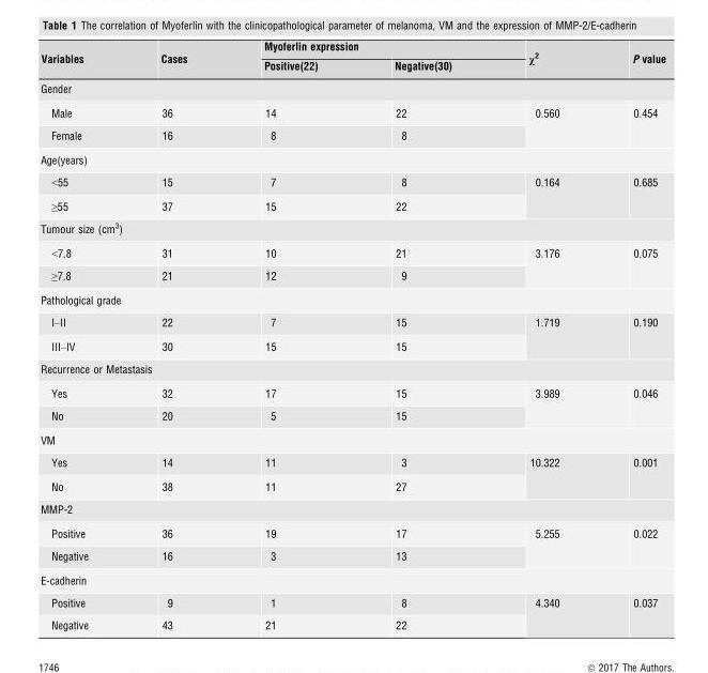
<table><thead><tr><td rowspan="2">Variables</td><td rowspan="2">Cases</td><td colspan="2">Myoferlin expression</td><td rowspan="2">χ<sup>2</sup></td><td rowspan="2">P value</td></tr><tr><td>Positive(22)</td><td>Negative(30)</td></tr></thead><tbody><tr><td colspan="6">Gender</td></tr><tr><td>Male</td><td>36</td><td>14</td><td>22</td><td rowspan="2">0.560</td><td rowspan="2">0.454</td></tr><tr><td>Female</td><td>16</td><td>8</td><td>8</td></tr><tr><td colspan="6">Age(years)</td></tr><tr><td>&lt;55</td><td>15</td><td>7</td><td>8</td><td rowspan="2">0.164</td><td rowspan="2">0.685</td></tr><tr><td>≥55</td><td>37</td><td>15</td><td>22</td></tr><tr><td colspan="6">Tumour size (cm<sup>3</sup>)</td></tr><tr><td>&lt;7.8</td><td>31</td><td>10</td><td>21</td><td rowspan="2">3.176</td><td rowspan="2">0.075</td></tr><tr><td>≥7.8</td><td>21</td><td>12</td><td>9</td></tr><tr><td colspan="6">Pathological grade</td></tr><tr><td>I–II</td><td>22</td><td>7</td><td>15</td><td rowspan="2">1.719</td><td rowspan="2">0.190</td></tr><tr><td>III–IV</td><td>30</td><td>15</td><td>15</td></tr><tr><td colspan="6">Recurrence or Metastasis</td></tr><tr><td>Yes</td><td>32</td><td>17</td><td>15</td><td rowspan="2">3.989</td><td rowspan="2">0.046</td></tr><tr><td>No</td><td>20</td><td>5</td><td>15</td></tr><tr><td colspan="6">VM</td></tr><tr><td>Yes</td><td>14</td><td>11</td><td>3</td><td rowspan="2">10.322</td><td rowspan="2">0.001</td></tr><tr><td>No</td><td>38</td><td>11</td><td>27</td></tr><tr><td colspan="6">MMP-2</td></tr><tr><td>Positive</td><td>36</td><td>19</td><td>17</td><td rowspan="2">5.255</td><td rowspan="2">0.022</td></tr><tr><td>Negative</td><td>16</td><td>3</td><td>13</td></tr><tr><td colspan="6">E-cadherin</td></tr><tr><td>Positive</td><td>9</td><td>1</td><td>8</td><td rowspan="2">4.340</td><td rowspan="2">0.037</td></tr><tr><td>Negative</td><td>43</td><td>21</td><td>22</td></tr></tbody></table>